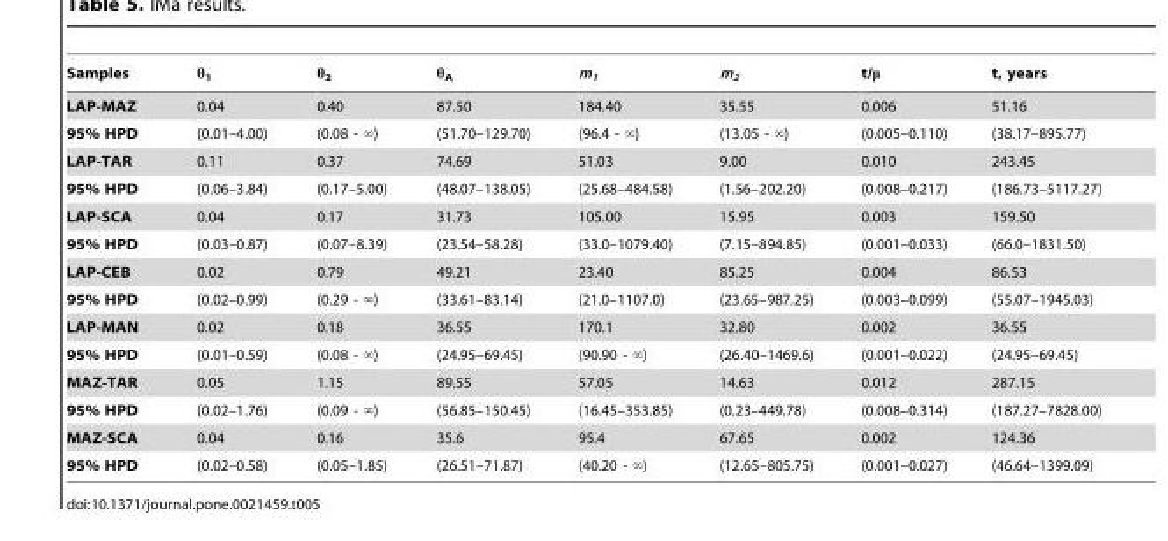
<table><thead><tr><td>Samples</td><td>θ<sub>1</sub></td><td>θ<sub>2</sub></td><td>θ<sub>A</sub></td><td>m<sub>1</sub></td><td>m<sub>2</sub></td><td>t/μ</td><td>t, years</td></tr></thead><tbody><tr><td>LAP-MAZ</td><td>0.04</td><td>0.40</td><td>87.50</td><td>184.40</td><td>35.55</td><td>0.006</td><td>51.16</td></tr><tr><td>95% HPD</td><td>(0.01–4.00)</td><td>(0.08 - ‘)</td><td>(51.70–129.70)</td><td>(96.4 - ‘)</td><td>(13.05 - ‘)</td><td>(0.005–0.110)</td><td>(38.17–895.77)</td></tr><tr><td>LAP-TAR</td><td>0.11</td><td>0.37</td><td>74.69</td><td>51.03</td><td>9.00</td><td>0.010</td><td>243.45</td></tr><tr><td>95% HPD</td><td>(0.06–3.84)</td><td>(0.17–5.00)</td><td>(48.07–138.05)</td><td>(25.68–484.58)</td><td>(1.56–202.20)</td><td>(0.008–0.217)</td><td>(186.73–5117.27)</td></tr><tr><td>LAP-SCA</td><td>0.04</td><td>0.17</td><td>31.73</td><td>105.00</td><td>15.95</td><td>0.003</td><td>159.50</td></tr><tr><td>95% HPD</td><td>(0.03–0.87)</td><td>(0.07–8.39)</td><td>(23.54–58.28)</td><td>(33.0–1079.40)</td><td>(7.15–894.85)</td><td>(0.001–0.033)</td><td>(66.0–1831.50)</td></tr><tr><td>LAP-CEB</td><td>0.02</td><td>0.79</td><td>49.21</td><td>23.40</td><td>85.25</td><td>0.004</td><td>86.53</td></tr><tr><td>95% HPD</td><td>(0.02–0.99)</td><td>(0.29 - ‘)</td><td>(33.61–83.14)</td><td>(21.0–1107.0)</td><td>(23.65–987.25)</td><td>(0.003–0.099)</td><td>(55.07–1945.03)</td></tr><tr><td>LAP-MAN</td><td>0.02</td><td>0.18</td><td>36.55</td><td>170.1</td><td>32.80</td><td>0.002</td><td>36.55</td></tr><tr><td>95% HPD</td><td>(0.01–0.59)</td><td>(0.08 - ‘)</td><td>(24.95–69.45)</td><td>(90.90 - ‘)</td><td>(26.40–1469.6)</td><td>(0.001–0.022)</td><td>(24.95–69.45)</td></tr><tr><td>MAZ-TAR</td><td>0.05</td><td>1.15</td><td>89.55</td><td>57.05</td><td>14.63</td><td>0.012</td><td>287.15</td></tr><tr><td>95% HPD</td><td>(0.02–1.76)</td><td>(0.09 - ‘)</td><td>(56.85–150.45)</td><td>(16.45–353.85)</td><td>(0.23–449.78)</td><td>(0.008–0.314)</td><td>(187.27–7828.00)</td></tr><tr><td>MAZ-SCA</td><td>0.04</td><td>0.16</td><td>35.6</td><td>95.4</td><td>67.65</td><td>0.002</td><td>124.36</td></tr><tr><td>95% HPD</td><td>(0.02–0.58)</td><td>(0.05–1.85)</td><td>(26.51–71.87)</td><td>(40.20 - ‘)</td><td>(12.65–805.75)</td><td>(0.001–0.027)</td><td>(46.64–1399.09)</td></tr></tbody></table>